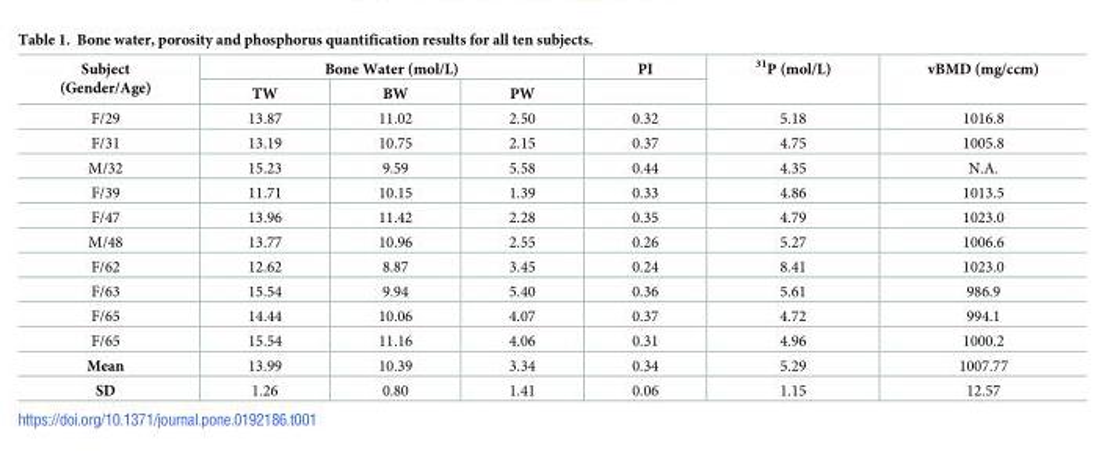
<table><thead><tr><td rowspan="2">Subject (Gender/Age)</td><td colspan="3">Bone Water (mol/L)</td><td rowspan="2">PI</td><td rowspan="2"><sup>31</sup>P (mol/L)</td><td rowspan="2">vBMD (mg/ccm)</td></tr><tr><td>TW</td><td>BW</td><td>PW</td></tr></thead><tbody><tr><td>F/29</td><td>13.87</td><td>11.02</td><td>2.50</td><td>0.32</td><td>5.18</td><td>1016.8</td></tr><tr><td>F/31</td><td>13.19</td><td>10.75</td><td>2.15</td><td>0.37</td><td>4.75</td><td>1005.8</td></tr><tr><td>M/32</td><td>15.23</td><td>9.59</td><td>5.58</td><td>0.44</td><td>4.35</td><td>N.A.</td></tr><tr><td>F/39</td><td>11.71</td><td>10.15</td><td>1.39</td><td>0.33</td><td>4.86</td><td>1013.5</td></tr><tr><td>F/47</td><td>13.96</td><td>11.42</td><td>2.28</td><td>0.35</td><td>4.79</td><td>1023.0</td></tr><tr><td>M/48</td><td>13.77</td><td>10.96</td><td>2.55</td><td>0.26</td><td>5.27</td><td>1006.6</td></tr><tr><td>F/62</td><td>12.62</td><td>8.87</td><td>3.45</td><td>0.24</td><td>8.41</td><td>1023.0</td></tr><tr><td>F/63</td><td>15.54</td><td>9.94</td><td>5.40</td><td>0.36</td><td>5.61</td><td>986.9</td></tr><tr><td>F/65</td><td>14.44</td><td>10.06</td><td>4.07</td><td>0.37</td><td>4.72</td><td>994.1</td></tr><tr><td>F/65</td><td>15.54</td><td>11.16</td><td>4.06</td><td>0.31</td><td>4.96</td><td>1000.2</td></tr><tr><td>Mean</td><td>13.99</td><td>10.39</td><td>3.34</td><td>0.34</td><td>5.29</td><td>1007.77</td></tr><tr><td>SD</td><td>1.26</td><td>0.80</td><td>1.41</td><td>0.06</td><td>1.15</td><td>12.57</td></tr></tbody></table>